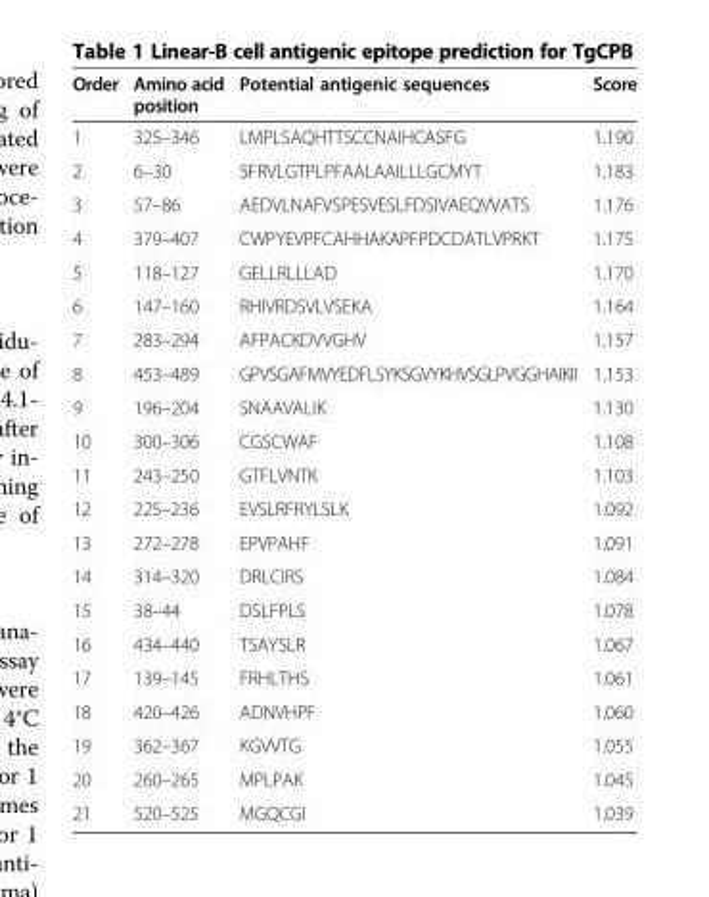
<table><thead><tr><td>Order</td><td>Amino acid position</td><td>Potential antigenic sequences</td><td>Score</td></tr></thead><tbody><tr><td>1</td><td>325–346</td><td>LMPLSAQHTTSCCNAIHCASFG</td><td>1.190</td></tr><tr><td>2</td><td>6–30</td><td>SFRVLGTPLPFAALAAILLLGCMYT</td><td>1.183</td></tr><tr><td>3</td><td>57–86</td><td>AEDVLNAFVSPESVESLFDSIVAEQVVATS</td><td>1.176</td></tr><tr><td>4</td><td>379–407</td><td>CWPYEVPFCAHHAKAPFPDCDATLVPRKT</td><td>1.175</td></tr><tr><td>5</td><td>118–127</td><td>GELLRLLLAD</td><td>1.170</td></tr><tr><td>6</td><td>147–160</td><td>RHIVRDSVLVSEKA</td><td>1.164</td></tr><tr><td>7</td><td>283–294</td><td>AFPACKDVVGHV</td><td>1.157</td></tr><tr><td>8</td><td>453–489</td><td>GPVSGAFMVYEDFLSYKSGVYKHVSGLPVGGHAIKII</td><td>1.153</td></tr><tr><td>9</td><td>196–204</td><td>SNAAVALIK</td><td>1.130</td></tr><tr><td>10</td><td>300–306</td><td>CGSCWAF</td><td>1.108</td></tr><tr><td>11</td><td>243–250</td><td>GTFLVNTK</td><td>1.103</td></tr><tr><td>12</td><td>225–236</td><td>EVSLRFRYLSLK</td><td>1.092</td></tr><tr><td>13</td><td>272–278</td><td>EPVPAHF</td><td>1.091</td></tr><tr><td>14</td><td>314–320</td><td>DRLCIRS</td><td>1.084</td></tr><tr><td>15</td><td>38–44</td><td>DSLFPLS</td><td>1.078</td></tr><tr><td>16</td><td>434–440</td><td>TSAYSLR</td><td>1.067</td></tr><tr><td>17</td><td>139–145</td><td>FRHLTHS</td><td>1.061</td></tr><tr><td>18</td><td>420–426</td><td>ADNVHPF</td><td>1.060</td></tr><tr><td>19</td><td>362–367</td><td>KGVVTG</td><td>1.055</td></tr><tr><td>20</td><td>260–265</td><td>MPLPAK</td><td>1.045</td></tr><tr><td>21</td><td>520–525</td><td>MGQCGI</td><td>1.039</td></tr></tbody></table>